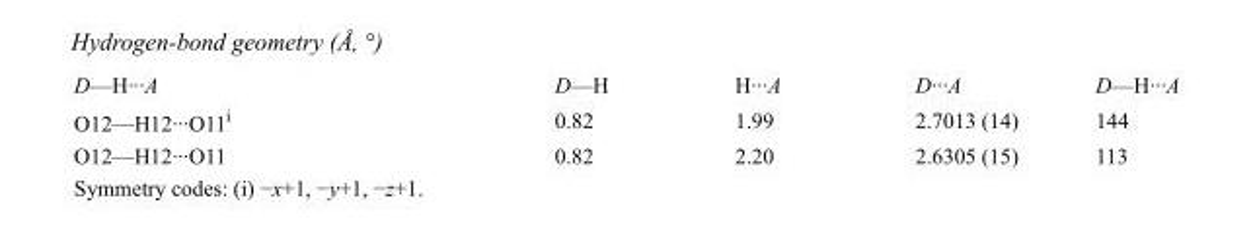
<table><tbody><tr><td>D—H···A</td><td>D—H</td><td>H···A</td><td>D···A</td><td>D—H···A</td></tr><tr><td>O12—H12···O11<sup>i</sup></td><td>0.82</td><td>1.99</td><td>2.7013 (14)</td><td>144</td></tr><tr><td>O12—H12···O11</td><td>0.82</td><td>2.20</td><td>2.6305 (15)</td><td>113</td></tr></tbody></table>